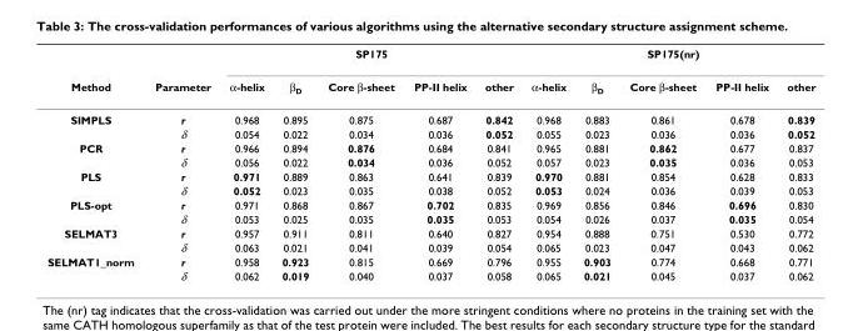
<table><thead><tr><td rowspan="2">Method</td><td rowspan="2">Parameter</td><td colspan="5">SP175</td><td colspan="5">SP175(nr)</td></tr><tr><td>α-helix</td><td>β<sub>D</sub></td><td>Core β-sheet</td><td>PP-II helix</td><td>other</td><td>α-helix</td><td>β<sub>D</sub></td><td>Core β-sheet</td><td>PP-II helix</td><td>other</td></tr></thead><tbody><tr><td rowspan="2">SIMPLS</td><td>r</td><td>0.968</td><td>0.895</td><td>0.875</td><td>0.687</td><td>0.842</td><td>0.968</td><td>0.883</td><td>0.861</td><td>0.678</td><td>0.839</td></tr><tr><td>δ</td><td>0.054</td><td>0.022</td><td>0.034</td><td>0.036</td><td>0.052</td><td>0.055</td><td>0.023</td><td>0.036</td><td>0.036</td><td>0.052</td></tr><tr><td rowspan="2">PCR</td><td>r</td><td>0.966</td><td>0.894</td><td>0.876</td><td>0.684</td><td>0.841</td><td>0.965</td><td>0.881</td><td>0.862</td><td>0.677</td><td>0.837</td></tr><tr><td>δ</td><td>0.056</td><td>0.022</td><td>0.034</td><td>0.036</td><td>0.052</td><td>0.057</td><td>0.023</td><td>0.035</td><td>0.036</td><td>0.053</td></tr><tr><td rowspan="2">PLS</td><td>r</td><td>0.971</td><td>0.889</td><td>0.863</td><td>0.641</td><td>0.839</td><td>0.970</td><td>0.881</td><td>0.854</td><td>0.628</td><td>0.833</td></tr><tr><td>δ</td><td>0.052</td><td>0.023</td><td>0.035</td><td>0.038</td><td>0.052</td><td>0.053</td><td>0.024</td><td>0.036</td><td>0.039</td><td>0.053</td></tr><tr><td rowspan="2">PLS-opt</td><td>r</td><td>0.971</td><td>0.868</td><td>0.867</td><td>0.702</td><td>0.835</td><td>0.969</td><td>0.856</td><td>0.846</td><td>0.696</td><td>0.830</td></tr><tr><td>δ</td><td>0.053</td><td>0.025</td><td>0.035</td><td>0.035</td><td>0.053</td><td>0.054</td><td>0.026</td><td>0.037</td><td>0.035</td><td>0.054</td></tr><tr><td rowspan="2">SELMAT3</td><td>r</td><td>0.957</td><td>0.911</td><td>0.811</td><td>0.640</td><td>0.827</td><td>0.954</td><td>0.888</td><td>0.751</td><td>0.530</td><td>0.772</td></tr><tr><td>δ</td><td>0.063</td><td>0.021</td><td>0.041</td><td>0.039</td><td>0.054</td><td>0.065</td><td>0.023</td><td>0.047</td><td>0.043</td><td>0.062</td></tr><tr><td rowspan="2">SELMAT1_norm</td><td>r</td><td>0.958</td><td>0.923</td><td>0.815</td><td>0.669</td><td>0.796</td><td>0.955</td><td>0.903</td><td>0.774</td><td>0.668</td><td>0.771</td></tr><tr><td>δ</td><td>0.062</td><td>0.019</td><td>0.040</td><td>0.037</td><td>0.058</td><td>0.065</td><td>0.021</td><td>0.045</td><td>0.037</td><td>0.062</td></tr></tbody></table>